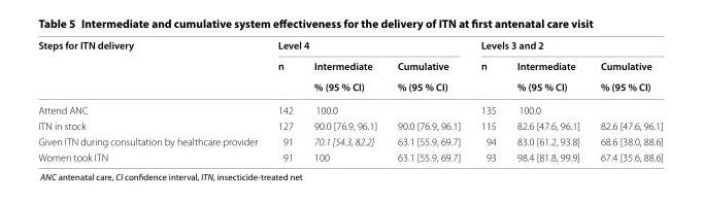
<table><thead><tr><td rowspan="3">Steps for ITN delivery</td><td colspan="3">Level 4</td><td colspan="3">Levels 3 and 2</td></tr><tr><td rowspan="2">n</td><td rowspan="2">Intermediate % (95 % CI)</td><td rowspan="2">Cumulative % (95 % CI)</td><td rowspan="2">n</td><td rowspan="2">Intermediate % (95 % CI)</td><td rowspan="2">Cumulative % (95 % CI)</td></tr><tr></tr></thead><tbody><tr><td>Attend ANC</td><td>142</td><td>100.0</td><td></td><td>135</td><td>100.0</td><td></td></tr><tr><td>ITN in stock</td><td>127</td><td>90.0 [76.9, 96.1]</td><td>90.0 [76.9, 96.1]</td><td>115</td><td>82.6 [47.6, 96.1]</td><td>82.6 [47.6, 96.1]</td></tr><tr><td>Given ITN during consultation by healthcare provider</td><td>91</td><td>70.1 [54.3, 82.2]</td><td>63.1 [55.9, 69.7]</td><td>94</td><td>83.0 [61.2, 93.8]</td><td>68.6 [38.0, 88.6]</td></tr><tr><td>Women took ITN</td><td>91</td><td>100</td><td>63.1 [55.9, 69.7]</td><td>93</td><td>98.4 [81.8, 99.9]</td><td>67.4 [35.6, 88.6]</td></tr></tbody></table>